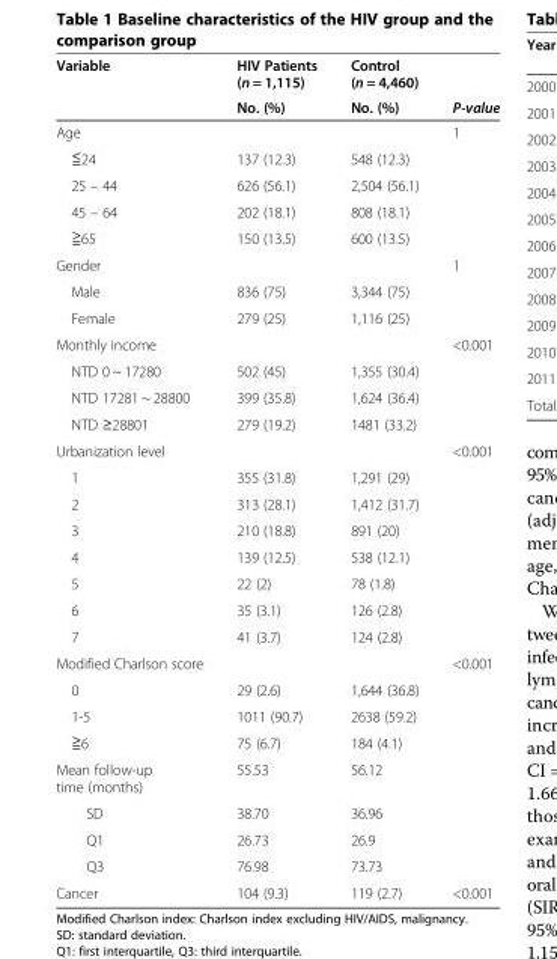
<table><thead><tr><td rowspan="2">Variable</td><td rowspan="2">HIV Patients (n = 1,115) No. (%)</td><td rowspan="2">Control (n = 4,460) No. (%)</td><td rowspan="2">P-value</td></tr><tr></tr></thead><tbody><tr><td>Age</td><td></td><td></td><td>1</td></tr><tr><td>≦24</td><td>137 (12.3)</td><td>548 (12.3)</td><td></td></tr><tr><td>25 – 44</td><td>626 (56.1)</td><td>2,504 (56.1)</td><td></td></tr><tr><td>45 – 64</td><td>202 (18.1)</td><td>808 (18.1)</td><td></td></tr><tr><td>≧65</td><td>150 (13.5)</td><td>600 (13.5)</td><td></td></tr><tr><td>Gender</td><td></td><td></td><td>1</td></tr><tr><td>Male</td><td>836 (75)</td><td>3,344 (75)</td><td></td></tr><tr><td>Female</td><td>279 (25)</td><td>1,116 (25)</td><td></td></tr><tr><td>Monthly income</td><td></td><td></td><td>&lt;0.001</td></tr><tr><td>NTD 0 ~ 17280</td><td>502 (45)</td><td>1,355 (30.4)</td><td></td></tr><tr><td>NTD 17281 ~ 28800</td><td>399 (35.8)</td><td>1,624 (36.4)</td><td></td></tr><tr><td>NTD ≥28801</td><td>279 (19.2)</td><td>1481 (33.2)</td><td></td></tr><tr><td>Urbanization level</td><td></td><td></td><td>&lt;0.001</td></tr><tr><td>1</td><td>355 (31.8)</td><td>1,291 (29)</td><td></td></tr><tr><td>2</td><td>313 (28.1)</td><td>1,412 (31.7)</td><td></td></tr><tr><td>3</td><td>210 (18.8)</td><td>891 (20)</td><td></td></tr><tr><td>4</td><td>139 (12.5)</td><td>538 (12.1)</td><td></td></tr><tr><td>5</td><td>22 (2)</td><td>78 (1.8)</td><td></td></tr><tr><td>6</td><td>35 (3.1)</td><td>126 (2.8)</td><td></td></tr><tr><td>7</td><td>41 (3.7)</td><td>124 (2.8)</td><td></td></tr><tr><td>Modified Charlson score</td><td></td><td></td><td>&lt;0.001</td></tr><tr><td>0</td><td>29 (2.6)</td><td>1,644 (36.8)</td><td></td></tr><tr><td>1-5</td><td>1011 (90.7)</td><td>2638 (59.2)</td><td></td></tr><tr><td>≧6</td><td>75 (6.7)</td><td>184 (4.1)</td><td></td></tr><tr><td>Mean follow-up time (months)</td><td>55.53</td><td>56.12</td><td></td></tr><tr><td>SD</td><td>38.70</td><td>36.96</td><td></td></tr><tr><td>Q1</td><td>26.73</td><td>26.9</td><td></td></tr><tr><td>Q3</td><td>76.98</td><td>73.73</td><td></td></tr><tr><td>Cancer</td><td>104 (9.3)</td><td>119 (2.7)</td><td>&lt;0.001</td></tr></tbody></table>